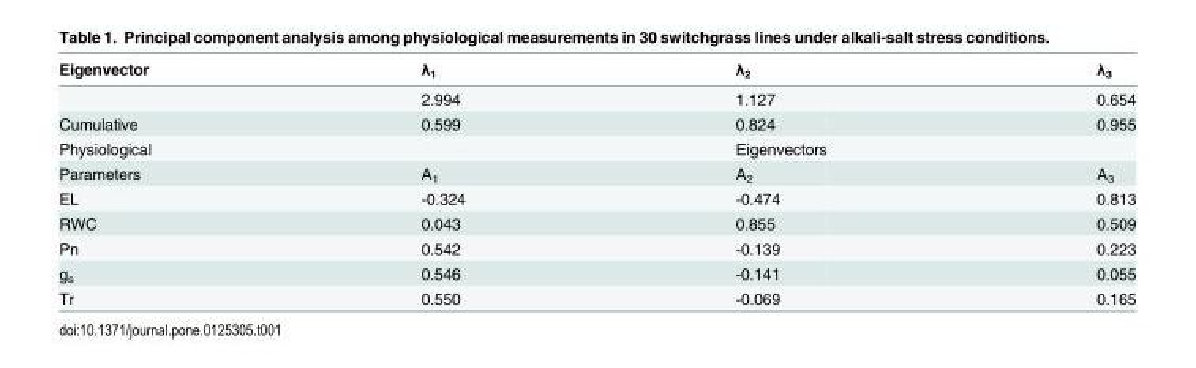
<table><thead><tr><td>Eigenvector</td><td>λ<sub>1</sub></td><td>λ<sub>2</sub></td><td>λ<sub>3</sub></td></tr></thead><tbody><tr><td></td><td>2.994</td><td>1.127</td><td>0.654</td></tr><tr><td>Cumulative</td><td>0.599</td><td>0.824</td><td>0.955</td></tr><tr><td>Physiological</td><td></td><td>Eigenvectors</td><td></td></tr><tr><td>Parameters</td><td>A<sub>1</sub></td><td>A<sub>2</sub></td><td>A<sub>3</sub></td></tr><tr><td>EL</td><td>-0.324</td><td>-0.474</td><td>0.813</td></tr><tr><td>RWC</td><td>0.043</td><td>0.855</td><td>0.509</td></tr><tr><td>Pn</td><td>0.542</td><td>-0.139</td><td>0.223</td></tr><tr><td>g<sub>s</sub></td><td>0.546</td><td>-0.141</td><td>0.055</td></tr><tr><td>Tr</td><td>0.550</td><td>-0.069</td><td>0.165</td></tr></tbody></table>